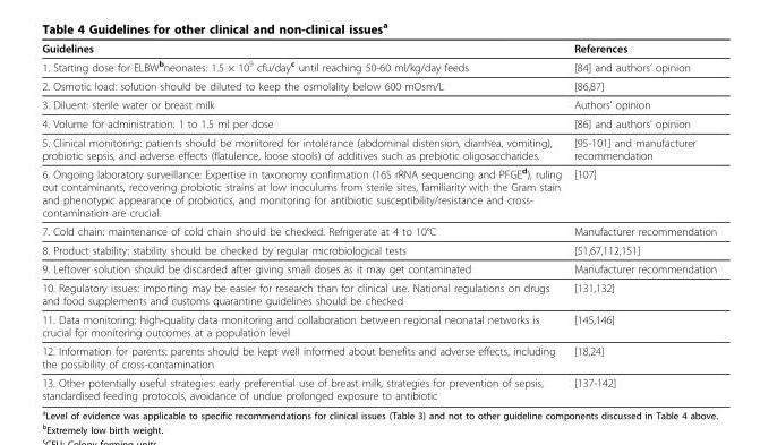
<table><thead><tr><td>Guidelines</td><td>References</td></tr></thead><tbody><tr><td>1. Starting dose for ELBW<sup>b</sup>neonates: 1.5 × 10<sup>9</sup> cfu/day<sup>c</sup> until reaching 50-60 ml/kg/day feeds</td><td>[84] and authors’ opinion</td></tr><tr><td>2. Osmotic load: solution should be diluted to keep the osmolality below 600 mOsm/L</td><td>[86,87]</td></tr><tr><td>3. Diluent: sterile water or breast milk</td><td>Authors’ opinion</td></tr><tr><td>4. Volume for administration: 1 to 1.5 ml per dose</td><td>[86] and authors’ opinion</td></tr><tr><td>5. Clinical monitoring: patients should be monitored for intolerance (abdominal distension, diarrhea, vomiting), probiotic sepsis, and adverse effects (flatulence, loose stools) of additives such as prebiotic oligosaccharides.</td><td>[95-101] and manufacturer recommendation</td></tr><tr><td>6. Ongoing laboratory surveillance: Expertise in taxonomy confirmation (16S rRNA sequencing and PFGE<sup>d</sup>), ruling out contaminants, recovering probiotic strains at low inoculums from sterile sites, familiarity with the Gram stain and phenotypic appearance of probiotics, and monitoring for antibiotic susceptibility/resistance and cross- contamination are crucial.</td><td>[107]</td></tr><tr><td>7. Cold chain: maintenance of cold chain should be checked. Refrigerate at 4 to 10°C</td><td>Manufacturer recommendation</td></tr><tr><td>8. Product stability: stability should be checked by regular microbiological tests</td><td>[51,67,112,151]</td></tr><tr><td>9. Leftover solution should be discarded after giving small doses as it may get contaminated</td><td>Manufacturer recommendation</td></tr><tr><td>10. Regulatory issues: importing may be easier for research than for clinical use. National regulations on drugs and food supplements and customs quarantine guidelines should be checked</td><td>[131,132]</td></tr><tr><td>11. Data monitoring: high-quality data monitoring and collaboration between regional neonatal networks is crucial for monitoring outcomes at a population level</td><td>[145,146]</td></tr><tr><td>12. Information for parents: parents should be kept well informed about benefits and adverse effects, including the possibility of cross-contamination</td><td>[18,24]</td></tr><tr><td>13. Other potentially useful strategies: early preferential use of breast milk, strategies for prevention of sepsis, standardised feeding protocols, avoidance of undue prolonged exposure to antibiotic</td><td>[137-142]</td></tr></tbody></table>